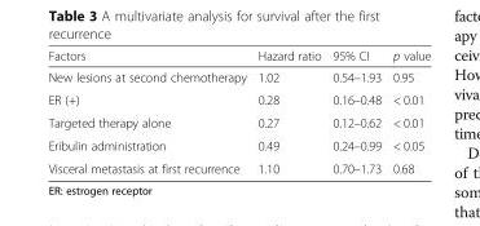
<table><thead><tr><td>Factors</td><td>Hazard ratio</td><td>95% CI</td><td>p value</td></tr></thead><tbody><tr><td>New lesions at second chemotherapy</td><td>1.02</td><td>0.54–1.93</td><td>0.95</td></tr><tr><td>ER (+)</td><td>0.28</td><td>0.16–0.48</td><td>&lt; 0.01</td></tr><tr><td>Targeted therapy alone</td><td>0.27</td><td>0.12–0.62</td><td>&lt; 0.01</td></tr><tr><td>Eribulin administration</td><td>0.49</td><td>0.24–0.99</td><td>&lt; 0.05</td></tr><tr><td>Visceral metastasis at first recurrence</td><td>1.10</td><td>0.70–1.73</td><td>0.68</td></tr></tbody></table>